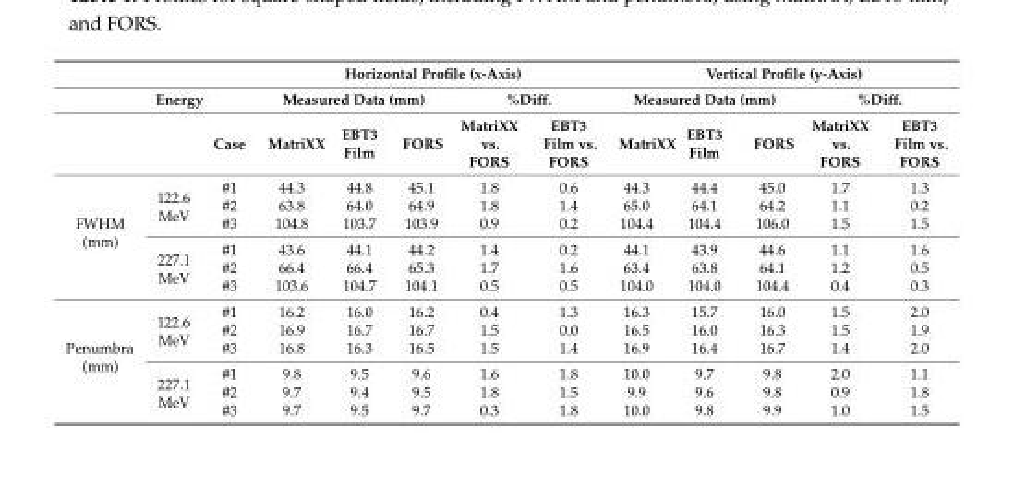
<table><thead><tr><td rowspan="3"></td><td rowspan="3">Energy</td><td rowspan="3">Case</td><td colspan="5">Horizontal Profile (x-Axis)</td><td colspan="5">Vertical Profile (y-Axis)</td></tr><tr><td colspan="3">Measured Data (mm)</td><td colspan="2">%Diff.</td><td colspan="3">Measured Data (mm)</td><td colspan="2">%Diff.</td></tr><tr><td>MatriXX</td><td>EBT3 Film</td><td>FORS</td><td>MatriXX vs. FORS</td><td>EBT3 Film vs. FORS</td><td>MatriXX</td><td>EBT3 Film</td><td>FORS</td><td>MatriXX vs. FORS</td><td>EBT3 Film vs. FORS</td></tr></thead><tbody><tr><td rowspan="6">FWHM (mm)</td><td rowspan="3">122.6 MeV</td><td>#1</td><td>44.3</td><td>44.8</td><td>45.1</td><td>1.8</td><td>0.6</td><td>44.3</td><td>44.4</td><td>45.0</td><td>1.7</td><td>1.3</td></tr><tr><td>#2</td><td>63.8</td><td>64.0</td><td>64.9</td><td>1.8</td><td>1.4</td><td>65.0</td><td>64.1</td><td>64.2</td><td>1.1</td><td>0.2</td></tr><tr><td>#3</td><td>104.8</td><td>103.7</td><td>103.9</td><td>0.9</td><td>0.2</td><td>104.4</td><td>104.4</td><td>106.0</td><td>1.5</td><td>1.5</td></tr><tr><td rowspan="3">227.1 MeV</td><td>#1</td><td>43.6</td><td>44.1</td><td>44.2</td><td>1.4</td><td>0.2</td><td>44.1</td><td>43.9</td><td>44.6</td><td>1.1</td><td>1.6</td></tr><tr><td>#2</td><td>66.4</td><td>66.4</td><td>65.3</td><td>1.7</td><td>1.6</td><td>63.4</td><td>63.8</td><td>64.1</td><td>1.2</td><td>0.5</td></tr><tr><td>#3</td><td>103.6</td><td>104.7</td><td>104.1</td><td>0.5</td><td>0.5</td><td>104.0</td><td>104.0</td><td>104.4</td><td>0.4</td><td>0.3</td></tr><tr><td rowspan="6">Penumbra (mm)</td><td rowspan="3">122.6 MeV</td><td>#1</td><td>16.2</td><td>16.0</td><td>16.2</td><td>0.4</td><td>1.3</td><td>16.3</td><td>15.7</td><td>16.0</td><td>1.5</td><td>2.0</td></tr><tr><td>#2</td><td>16.9</td><td>16.7</td><td>16.7</td><td>1.5</td><td>0.0</td><td>16.5</td><td>16.0</td><td>16.3</td><td>1.5</td><td>1.9</td></tr><tr><td>#3</td><td>16.8</td><td>16.3</td><td>16.5</td><td>1.5</td><td>1.4</td><td>16.9</td><td>16.4</td><td>16.7</td><td>1.4</td><td>2.0</td></tr><tr><td rowspan="3">227.1 MeV</td><td>#1</td><td>9.8</td><td>9.5</td><td>9.6</td><td>1.6</td><td>1.8</td><td>10.0</td><td>9.7</td><td>9.8</td><td>2.0</td><td>1.1</td></tr><tr><td>#2</td><td>9.7</td><td>9.4</td><td>9.5</td><td>1.8</td><td>1.5</td><td>9.9</td><td>9.6</td><td>9.8</td><td>0.9</td><td>1.8</td></tr><tr><td>#3</td><td>9.7</td><td>9.5</td><td>9.7</td><td>0.3</td><td>1.8</td><td>10.0</td><td>9.8</td><td>9.9</td><td>1.0</td><td>1.5</td></tr></tbody></table>